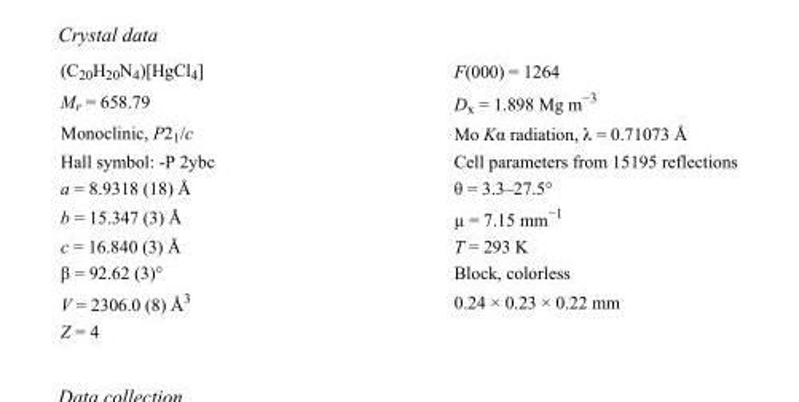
<table><tbody><tr><td>(C<sub>20</sub>H<sub>20</sub>N<sub>4</sub>)[HgCl<sub>4</sub>]</td><td>F(000) = 1264</td></tr><tr><td>M<sub>r</sub> = 658.79</td><td>D<sub>x</sub> = 1.898 Mg m<sup>−3</sup></td></tr><tr><td>Monoclinic, P2<sub>1</sub>/c</td><td>Mo Kα radiation, λ = 0.71073 Å</td></tr><tr><td>Hall symbol: -P 2ybc</td><td>Cell parameters from 15195 reflections</td></tr><tr><td>a = 8.9318 (18) Å</td><td>θ = 3.3–27.5°</td></tr><tr><td>b = 15.347 (3) Å</td><td>µ = 7.15 mm<sup>−1</sup></td></tr><tr><td>c = 16.840 (3) Å</td><td>T = 293 K</td></tr><tr><td>β = 92.62 (3)°</td><td>Block, colorless</td></tr><tr><td>V = 2306.0 (8) Å<sup>3</sup></td><td>0.24 × 0.23 × 0.22 mm</td></tr><tr><td>Z = 4</td><td></td></tr></tbody></table>